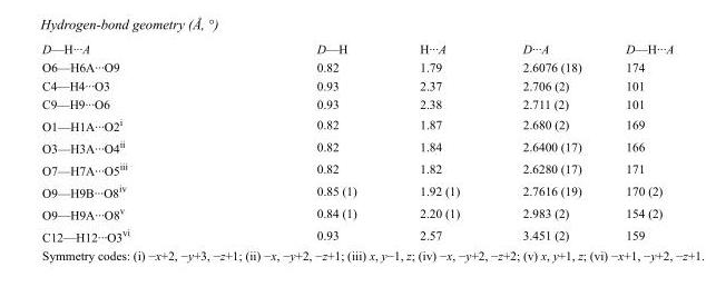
<table><tbody><tr><td>D—H···A</td><td>D—H</td><td>H···A</td><td>D···A</td><td>D—H···A</td></tr><tr><td>O6—H6A···O9</td><td>0.82</td><td>1.79</td><td>2.6076 (18)</td><td>174</td></tr><tr><td>C4—H4···O3</td><td>0.93</td><td>2.37</td><td>2.706 (2)</td><td>101</td></tr><tr><td>C9—H9···O6</td><td>0.93</td><td>2.38</td><td>2.711 (2)</td><td>101</td></tr><tr><td>O1—H1A···O2<sup>i</sup></td><td>0.82</td><td>1.87</td><td>2.680 (2)</td><td>169</td></tr><tr><td>O3—H3A···O4<sup>ii</sup></td><td>0.82</td><td>1.84</td><td>2.6400 (17)</td><td>166</td></tr><tr><td>O7—H7A···O5<sup>iii</sup></td><td>0.82</td><td>1.82</td><td>2.6280 (17)</td><td>171</td></tr><tr><td>O9—H9B···O8<sup>iv</sup></td><td>0.85 (1)</td><td>1.92 (1)</td><td>2.7616 (19)</td><td>170 (2)</td></tr><tr><td>O9—H9A···O8<sup>v</sup></td><td>0.84 (1)</td><td>2.20 (1)</td><td>2.983 (2)</td><td>154 (2)</td></tr><tr><td>C12—H12···O3<sup>vi</sup></td><td>0.93</td><td>2.57</td><td>3.451 (2)</td><td>159</td></tr></tbody></table>